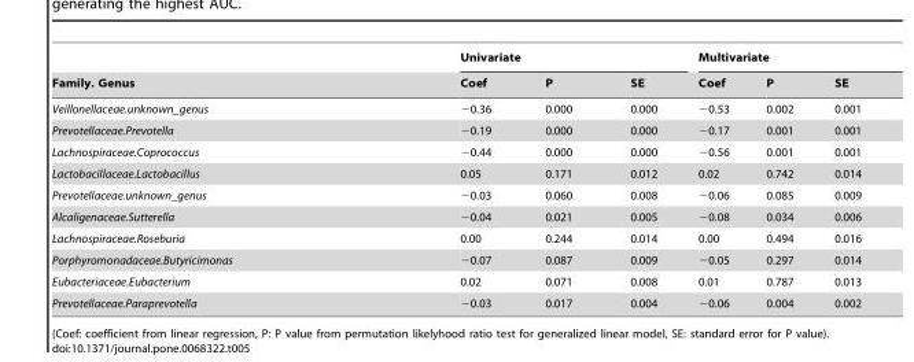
<table><thead><tr><td rowspan="2">Family. Genus</td><td colspan="3">Univariate</td><td colspan="3">Multivariate</td></tr><tr><td>Coef</td><td>P</td><td>SE</td><td>Coef</td><td>P</td><td>SE</td></tr></thead><tbody><tr><td>Veillonellaceae.unknown_genus</td><td>−0.36</td><td>0.000</td><td>0.000</td><td>−0.53</td><td>0.002</td><td>0.001</td></tr><tr><td>Prevotellaceae.Prevotella</td><td>−0.19</td><td>0.000</td><td>0.000</td><td>−0.17</td><td>0.001</td><td>0.001</td></tr><tr><td>Lachnospiraceae.Coprococcus</td><td>−0.44</td><td>0.000</td><td>0.000</td><td>−0.56</td><td>0.001</td><td>0.001</td></tr><tr><td>Lactobacillaceae.Lactobacillus</td><td>0.05</td><td>0.171</td><td>0.012</td><td>0.02</td><td>0.742</td><td>0.014</td></tr><tr><td>Prevotellaceae.unknown_genus</td><td>−0.03</td><td>0.060</td><td>0.008</td><td>−0.06</td><td>0.085</td><td>0.009</td></tr><tr><td>Alcaligenaceae.Sutterella</td><td>−0.04</td><td>0.021</td><td>0.005</td><td>−0.08</td><td>0.034</td><td>0.006</td></tr><tr><td>Lachnospiraceae.Roseburia</td><td>0.00</td><td>0.244</td><td>0.014</td><td>0.00</td><td>0.494</td><td>0.016</td></tr><tr><td>Porphyromonadaceae.Butyricimonas</td><td>−0.07</td><td>0.087</td><td>0.009</td><td>−0.05</td><td>0.297</td><td>0.014</td></tr><tr><td>Eubacteriaceae.Eubacterium</td><td>0.02</td><td>0.071</td><td>0.008</td><td>0.01</td><td>0.787</td><td>0.013</td></tr><tr><td>Prevotellaceae.Paraprevotella</td><td>−0.03</td><td>0.017</td><td>0.004</td><td>−0.06</td><td>0.004</td><td>0.002</td></tr></tbody></table>